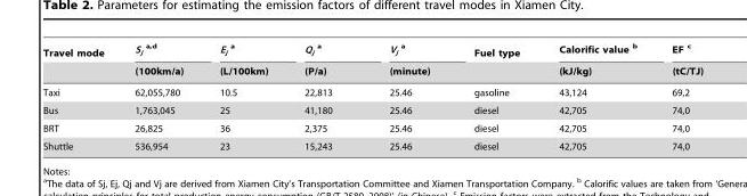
<table><thead><tr><td rowspan="2">Travel mode</td><td rowspan="2">S<sub>j</sub> a,d (100km/a)</td><td rowspan="2">E<sub>j</sub> a (L/100km)</td><td rowspan="2">Q<sub>j</sub> a (P/a)</td><td rowspan="2">V<sub>j</sub> a (minute)</td><td rowspan="2">Fuel type</td><td rowspan="2">Calorific value <sup>b</sup> (kJ/kg)</td><td rowspan="2">EF <sup>c</sup> (tC/TJ)</td></tr><tr></tr></thead><tbody><tr><td>Taxi</td><td>62,055,780</td><td>10.5</td><td>22,813</td><td>25.46</td><td>gasoline</td><td>43,124</td><td>69,2</td></tr><tr><td>Bus</td><td>1,763,045</td><td>25</td><td>41,180</td><td>25.46</td><td>diesel</td><td>42,705</td><td>74,0</td></tr><tr><td>BRT</td><td>26,825</td><td>36</td><td>2,375</td><td>25.46</td><td>diesel</td><td>42,705</td><td>74,0</td></tr><tr><td>Shuttle</td><td>536,954</td><td>23</td><td>15,243</td><td>25.46</td><td>diesel</td><td>42,705</td><td>74,0</td></tr></tbody></table>